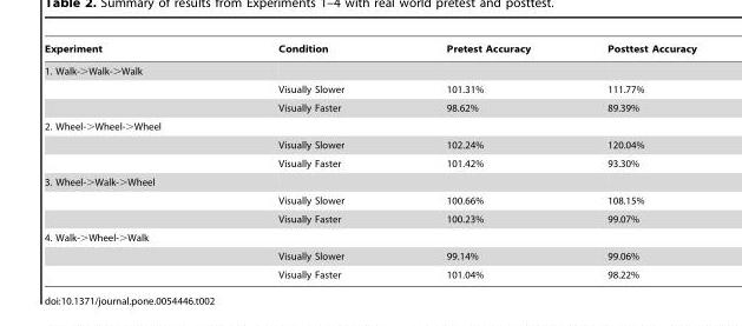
<table><thead><tr><td>Experiment</td><td>Condition</td><td>Pretest Accuracy</td><td>Posttest Accuracy</td></tr></thead><tbody><tr><td colspan="4">1. Walk-&gt;Walk-&gt;Walk</td></tr><tr><td></td><td>Visually Slower</td><td>101.31%</td><td>111.77%</td></tr><tr><td></td><td>Visually Faster</td><td>98.62%</td><td>89.39%</td></tr><tr><td colspan="4">2. Wheel-&gt;Wheel-&gt;Wheel</td></tr><tr><td></td><td>Visually Slower</td><td>102.24%</td><td>120.04%</td></tr><tr><td></td><td>Visually Faster</td><td>101.42%</td><td>93.30%</td></tr><tr><td colspan="4">3. Wheel-&gt;Walk-&gt;Wheel</td></tr><tr><td></td><td>Visually Slower</td><td>100.66%</td><td>108.15%</td></tr><tr><td></td><td>Visually Faster</td><td>100.23%</td><td>99.07%</td></tr><tr><td colspan="4">4. Walk-&gt;Wheel-&gt;Walk</td></tr><tr><td></td><td>Visually Slower</td><td>99.14%</td><td>99.06%</td></tr><tr><td></td><td>Visually Faster</td><td>101.04%</td><td>98.22%</td></tr></tbody></table>